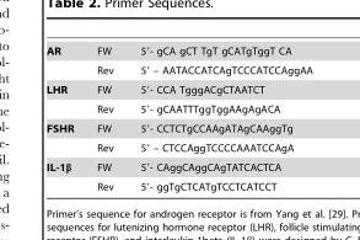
<table><tbody><tr><td rowspan="2">AR</td><td>FW</td><td>5′- gCA gCT TgT gCATgTggT CA</td></tr><tr><td>Rev</td><td>5′ – AATACCATCAgTCCCATCCAggAA</td></tr><tr><td rowspan="2">LHR</td><td>FW</td><td>5′- CCA TgggACgCTAATCT</td></tr><tr><td>Rev</td><td>5′- gCAATTTggTggAAgAgACA</td></tr><tr><td rowspan="2">FSHR</td><td>FW</td><td>5′- CCTCTgCCAAgATAgCAAggTg</td></tr><tr><td>Rev</td><td>5′ – CTCCAggTCCCCAAATCCAgA</td></tr><tr><td rowspan="2">IL-1β</td><td>FW</td><td>5′- CAggCAggCAgTATCACTCA</td></tr><tr><td>Rev</td><td>5′- ggTgCTCATgTCCTCATCCT</td></tr></tbody></table>